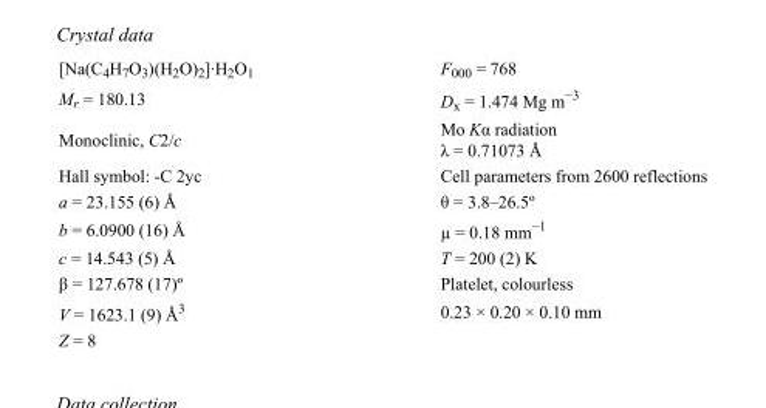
<table><tbody><tr><td>[Na(C<sub>4</sub>H<sub>7</sub>O<sub>3</sub>)(H<sub>2</sub>O)<sub>2</sub>]·H<sub>2</sub>O<sub>1</sub></td><td>F<sub>000</sub> = 768</td></tr><tr><td>M<sub>r</sub> = 180.13</td><td>D<sub>x</sub> = 1.474 Mg m<sup>−3</sup></td></tr><tr><td>Monoclinic, C2/c</td><td>Mo Kα radiation λ = 0.71073 Å</td></tr><tr><td>Hall symbol: -C 2yc</td><td>Cell parameters from 2600 reflections</td></tr><tr><td>a = 23.155 (6) Å</td><td>θ = 3.8–26.5º</td></tr><tr><td>b = 6.0900 (16) Å</td><td>µ = 0.18 mm<sup>−1</sup></td></tr><tr><td>c = 14.543 (5) Å</td><td>T = 200 (2) K</td></tr><tr><td>β = 127.678 (17)º</td><td>Platelet, colourless</td></tr><tr><td>V = 1623.1 (9) Å<sup>3</sup></td><td>0.23 × 0.20 × 0.10 mm</td></tr><tr><td>Z = 8</td><td></td></tr></tbody></table>